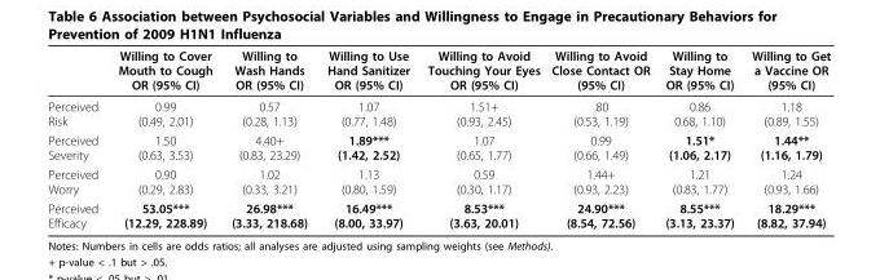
<table><thead><tr><td></td><td>Willing to Cover Mouth to Cough OR (95% CI)</td><td>Willing to Wash Hands OR (95% CI)</td><td>Willing to Use Hand Sanitizer OR (95% CI)</td><td>Willing to Avoid Touching Your Eyes OR (95% CI)</td><td>Willing to Avoid Close Contact OR (95% CI)</td><td>Willing to Stay Home OR (95% CI)</td><td>Willing to Get a Vaccine OR (95% CI)</td></tr></thead><tbody><tr><td>Perceived Risk</td><td>0.99 (0.49, 2.01)</td><td>0.57 (0.28, 1.13)</td><td>1.07 (0.77, 1.48)</td><td>1.51+ (0.93, 2.45)</td><td>.80 (0.53, 1.19)</td><td>0.86 0.68, 1.10)</td><td>1.18 (0.89, 1.55)</td></tr><tr><td>Perceived Severity</td><td>1.50 (0.63, 3.53)</td><td>4.40+ (0.83, 23.29)</td><td>1.89*** (1.42, 2.52)</td><td>1.07 (0.65, 1.77)</td><td>0.99 (0.66, 1.49)</td><td>1.51* (1.06, 2.17)</td><td>1.44** (1.16, 1.79)</td></tr><tr><td>Perceived Worry</td><td>0.90 (0.29, 2.83)</td><td>1.02 (0.33, 3.21)</td><td>1.13 (0.80, 1.59)</td><td>0.59 (0.30, 1.17)</td><td>1.44+ (0.93, 2.23)</td><td>1.21 (0.83, 1.77)</td><td>1.24 (0.93, 1.66)</td></tr><tr><td>Perceived Efficacy</td><td>53.05*** (12.29, 228.89)</td><td>26.98*** (3.33, 218.68)</td><td>16.49*** (8.00, 33.97)</td><td>8.53*** (3.63, 20.01)</td><td>24.90*** (8.54, 72.56)</td><td>8.55*** (3.13, 23.37)</td><td>18.29*** (8.82, 37.94)</td></tr></tbody></table>